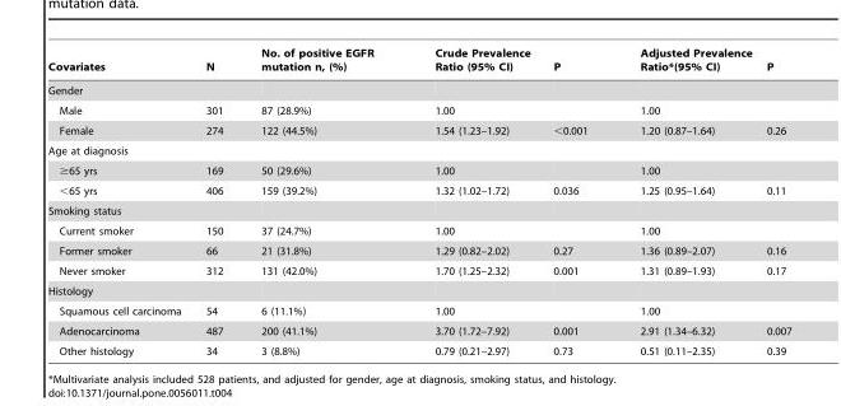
<table><thead><tr><td>Covariates</td><td>N</td><td>No. of positive EGFR mutation n, (%)</td><td>Crude Prevalence Ratio (95% CI)</td><td>P</td><td>Adjusted Prevalence Ratio*(95% CI)</td><td>P</td></tr></thead><tbody><tr><td colspan="7">Gender</td></tr><tr><td>Male</td><td>301</td><td>87 (28.9%)</td><td>1.00</td><td></td><td>1.00</td><td></td></tr><tr><td>Female</td><td>274</td><td>122 (44.5%)</td><td>1.54 (1.23–1.92)</td><td>&lt;0.001</td><td>1.20 (0.87–1.64)</td><td>0.26</td></tr><tr><td colspan="7">Age at diagnosis</td></tr><tr><td>≥65 yrs</td><td>169</td><td>50 (29.6%)</td><td>1.00</td><td></td><td>1.00</td><td></td></tr><tr><td>&lt;65 yrs</td><td>406</td><td>159 (39.2%)</td><td>1.32 (1.02–1.72)</td><td>0.036</td><td>1.25 (0.95–1.64)</td><td>0.11</td></tr><tr><td colspan="7">Smoking status</td></tr><tr><td>Current smoker</td><td>150</td><td>37 (24.7%)</td><td>1.00</td><td></td><td>1.00</td><td></td></tr><tr><td>Former smoker</td><td>66</td><td>21 (31.8%)</td><td>1.29 (0.82–2.02)</td><td>0.27</td><td>1.36 (0.89–2.07)</td><td>0.16</td></tr><tr><td>Never smoker</td><td>312</td><td>131 (42.0%)</td><td>1.70 (1.25–2.32)</td><td>0.001</td><td>1.31 (0.89–1.93)</td><td>0.17</td></tr><tr><td colspan="7">Histology</td></tr><tr><td>Squamous cell carcinoma</td><td>54</td><td>6 (11.1%)</td><td>1.00</td><td></td><td>1.00</td><td></td></tr><tr><td>Adenocarcinoma</td><td>487</td><td>200 (41.1%)</td><td>3.70 (1.72–7.92)</td><td>0.001</td><td>2.91 (1.34–6.32)</td><td>0.007</td></tr><tr><td>Other histology</td><td>34</td><td>3 (8.8%)</td><td>0.79 (0.21–2.97)</td><td>0.73</td><td>0.51 (0.11–2.35)</td><td>0.39</td></tr></tbody></table>